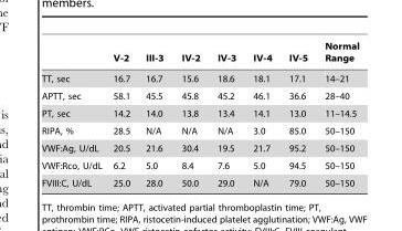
<table><thead><tr><td></td><td>V-2</td><td>III-3</td><td>IV-2</td><td>IV-3</td><td>IV-4</td><td>IV-5</td><td>Normal Range</td></tr></thead><tbody><tr><td>TT, sec</td><td>16.7</td><td>16.7</td><td>15.6</td><td>18.6</td><td>18.1</td><td>17.1</td><td>14–21</td></tr><tr><td>APTT, sec</td><td>58.1</td><td>45.5</td><td>45.8</td><td>45.2</td><td>46.1</td><td>36.6</td><td>28–40</td></tr><tr><td>PT, sec</td><td>14.2</td><td>14.0</td><td>13.8</td><td>13.4</td><td>14.1</td><td>13.0</td><td>11–14.5</td></tr><tr><td>RIPA, %</td><td>28.5</td><td>N/A</td><td>N/A</td><td>N/A</td><td>3.0</td><td>85.0</td><td>50–150</td></tr><tr><td>VWF:Ag, U/dL</td><td>20.5</td><td>21.6</td><td>30.4</td><td>19.5</td><td>21.7</td><td>95.2</td><td>50–150</td></tr><tr><td>VWF:Rco, U/dL</td><td>6.2</td><td>5.0</td><td>8.4</td><td>7.6</td><td>5.0</td><td>94.5</td><td>50–150</td></tr><tr><td>FVIII:C, U/dL</td><td>25.0</td><td>28.0</td><td>50.0</td><td>29.0</td><td>N/A</td><td>79.0</td><td>50–150</td></tr></tbody></table>